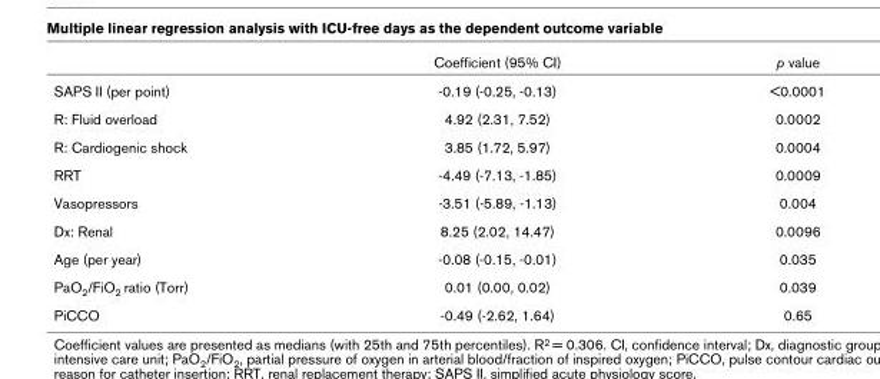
<table><thead><tr><td></td><td>Coefficient (95% CI)</td><td>p value</td></tr></thead><tbody><tr><td>SAPS II (per point)</td><td>-0.19 (-0.25, -0.13)</td><td>&lt;0.0001</td></tr><tr><td>R: Fluid overload</td><td>4.92 (2.31, 7.52)</td><td>0.0002</td></tr><tr><td>R: Cardiogenic shock</td><td>3.85 (1.72, 5.97)</td><td>0.0004</td></tr><tr><td>RRT</td><td>-4.49 (-7.13, -1.85)</td><td>0.0009</td></tr><tr><td>Vasopressors</td><td>-3.51 (-5.89, -1.13)</td><td>0.004</td></tr><tr><td>Dx: Renal</td><td>8.25 (2.02, 14.47)</td><td>0.0096</td></tr><tr><td>Age (per year)</td><td>-0.08 (-0.15, -0.01)</td><td>0.035</td></tr><tr><td>PaO2/FiO2 ratio (Torr)</td><td>0.01 (0.00, 0.02)</td><td>0.039</td></tr><tr><td>PiCCO</td><td>-0.49 (-2.62, 1.64)</td><td>0.65</td></tr></tbody></table>